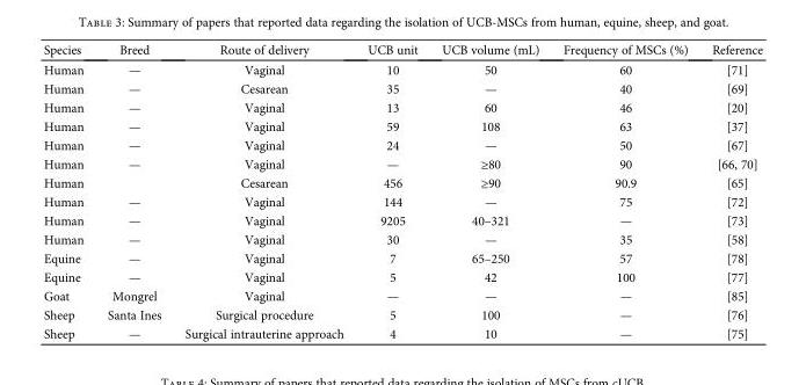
<table><thead><tr><td>Species</td><td>Breed</td><td>Route of delivery</td><td>UCB unit</td><td>UCB volume (mL)</td><td>Frequency of MSCs (%)</td><td>Reference</td></tr></thead><tbody><tr><td>Human</td><td>—</td><td>Vaginal</td><td>10</td><td>50</td><td>60</td><td>[71]</td></tr><tr><td>Human</td><td>—</td><td>Cesarean</td><td>35</td><td>—</td><td>40</td><td>[69]</td></tr><tr><td>Human</td><td>—</td><td>Vaginal</td><td>13</td><td>60</td><td>46</td><td>[20]</td></tr><tr><td>Human</td><td>—</td><td>Vaginal</td><td>59</td><td>108</td><td>63</td><td>[37]</td></tr><tr><td>Human</td><td>—</td><td>Vaginal</td><td>24</td><td>—</td><td>50</td><td>[67]</td></tr><tr><td>Human</td><td>—</td><td>Vaginal</td><td>—</td><td>≥80</td><td>90</td><td>[66, 70]</td></tr><tr><td>Human</td><td></td><td>Cesarean</td><td>456</td><td>≥90</td><td>90.9</td><td>[65]</td></tr><tr><td>Human</td><td>—</td><td>Vaginal</td><td>144</td><td>—</td><td>75</td><td>[72]</td></tr><tr><td>Human</td><td>—</td><td>Vaginal</td><td>9205</td><td>40–321</td><td>—</td><td>[73]</td></tr><tr><td>Human</td><td>—</td><td>Vaginal</td><td>30</td><td>—</td><td>35</td><td>[58]</td></tr><tr><td>Equine</td><td>—</td><td>Vaginal</td><td>7</td><td>65–250</td><td>57</td><td>[78]</td></tr><tr><td>Equine</td><td>—</td><td>Vaginal</td><td>5</td><td>42</td><td>100</td><td>[77]</td></tr><tr><td>Goat</td><td>Mongrel</td><td>Vaginal</td><td>—</td><td>—</td><td>—</td><td>[85]</td></tr><tr><td>Sheep</td><td>Santa Ines</td><td>Surgical procedure</td><td>5</td><td>100</td><td>—</td><td>[76]</td></tr><tr><td>Sheep</td><td>—</td><td>Surgical intrauterine approach</td><td>4</td><td>10</td><td>—</td><td>[75]</td></tr></tbody></table>